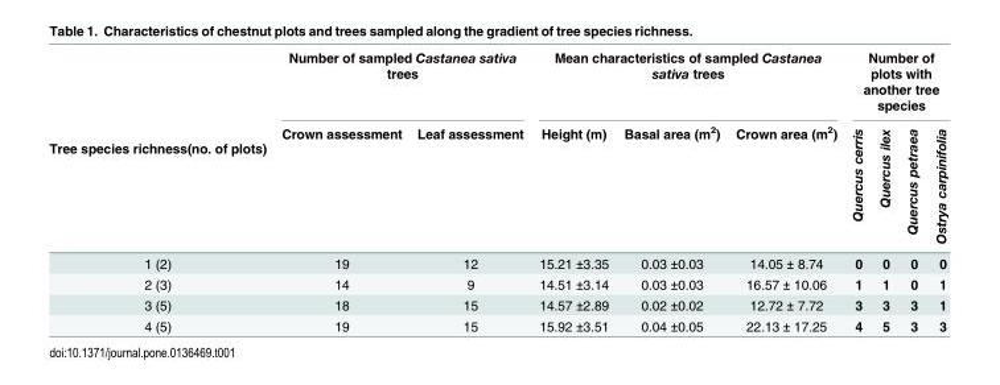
<table><thead><tr><td rowspan="2">Tree species richness(no. of plots)</td><td colspan="2">Number of sampled Castanea sativa trees</td><td colspan="3">Mean characteristics of sampled Castanea sativa trees</td><td colspan="4">Number of plots with another tree species</td></tr><tr><td>Crown assessment</td><td>Leaf assessment</td><td>Height (m)</td><td>Basal area (m<sup>2</sup>)</td><td>Crown area (m<sup>2</sup>)</td><td>Quercus cerris</td><td>Quercus ilex</td><td>Quercus petraea</td><td>Ostrya carpinifolia</td></tr></thead><tbody><tr><td>1 (2)</td><td>19</td><td>12</td><td>15.21 ±3.35</td><td>0.03 ±0.03</td><td>14.05 ± 8.74</td><td>0</td><td>0</td><td>0</td><td>0</td></tr><tr><td>2 (3)</td><td>14</td><td>9</td><td>14.51 ±3.14</td><td>0.03 ±0.03</td><td>16.57 ± 10.06</td><td>1</td><td>1</td><td>0</td><td>1</td></tr><tr><td>3 (5)</td><td>18</td><td>15</td><td>14.57 ±2.89</td><td>0.02 ±0.02</td><td>12.72 ± 7.72</td><td>3</td><td>3</td><td>3</td><td>1</td></tr><tr><td>4 (5)</td><td>19</td><td>15</td><td>15.92 ±3.51</td><td>0.04 ±0.05</td><td>22.13 ± 17.25</td><td>4</td><td>5</td><td>3</td><td>3</td></tr></tbody></table>